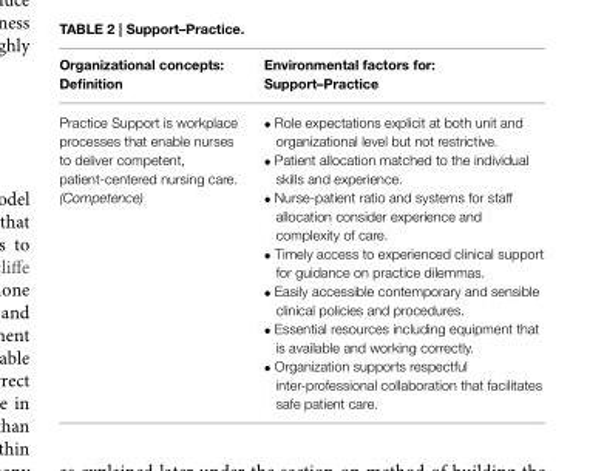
<table><thead><tr><td>Organizational concepts: Definition</td><td>Environmental factors for: Support–Practice</td></tr></thead><tbody><tr><td>Practice Support is workplace processes that enable nurses to deliver competent, patient-centered nursing care. (Competence)</td><td>• Role expectations explicit at both unit and organizational level but not restrictive. • Patient allocation matched to the individual skills and experience. • Nurse-patient ratio and systems for staff allocation consider experience and complexity of care. • Timely access to experienced clinical support for guidance on practice dilemmas. • Easily accessible contemporary and sensible clinical policies and procedures. • Essential resources including equipment that is available and working correctly. • Organization supports respectful inter-professional collaboration that facilitates safe patient care.</td></tr></tbody></table>